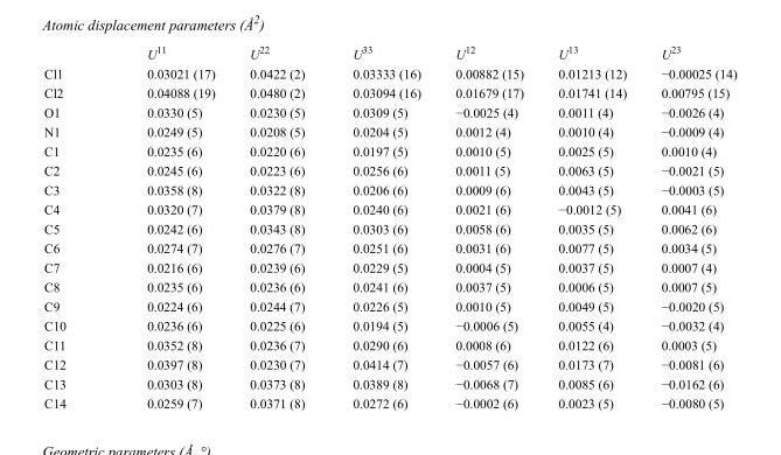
<table><thead><tr><td></td><td>U<sup>11</sup></td><td>U<sup>22</sup></td><td>U<sup>33</sup></td><td>U<sup>12</sup></td><td>U<sup>13</sup></td><td>U<sup>23</sup></td></tr></thead><tbody><tr><td>Cl1</td><td>0.03021 (17)</td><td>0.0422 (2)</td><td>0.03333 (16)</td><td>0.00882 (15)</td><td>0.01213 (12)</td><td>−0.00025 (14)</td></tr><tr><td>Cl2</td><td>0.04088 (19)</td><td>0.0480 (2)</td><td>0.03094 (16)</td><td>0.01679 (17)</td><td>0.01741 (14)</td><td>0.00795 (15)</td></tr><tr><td>O1</td><td>0.0330 (5)</td><td>0.0230 (5)</td><td>0.0309 (5)</td><td>−0.0025 (4)</td><td>0.0011 (4)</td><td>−0.0026 (4)</td></tr><tr><td>N1</td><td>0.0249 (5)</td><td>0.0208 (5)</td><td>0.0204 (5)</td><td>0.0012 (4)</td><td>0.0010 (4)</td><td>−0.0009 (4)</td></tr><tr><td>C1</td><td>0.0235 (6)</td><td>0.0220 (6)</td><td>0.0197 (5)</td><td>0.0010 (5)</td><td>0.0025 (5)</td><td>0.0010 (4)</td></tr><tr><td>C2</td><td>0.0245 (6)</td><td>0.0223 (6)</td><td>0.0256 (6)</td><td>0.0011 (5)</td><td>0.0063 (5)</td><td>−0.0021 (5)</td></tr><tr><td>C3</td><td>0.0358 (8)</td><td>0.0322 (8)</td><td>0.0206 (6)</td><td>0.0009 (6)</td><td>0.0043 (5)</td><td>−0.0003 (5)</td></tr><tr><td>C4</td><td>0.0320 (7)</td><td>0.0379 (8)</td><td>0.0240 (6)</td><td>0.0021 (6)</td><td>−0.0012 (5)</td><td>0.0041 (6)</td></tr><tr><td>C5</td><td>0.0242 (6)</td><td>0.0343 (8)</td><td>0.0303 (6)</td><td>0.0058 (6)</td><td>0.0035 (5)</td><td>0.0062 (6)</td></tr><tr><td>C6</td><td>0.0274 (7)</td><td>0.0276 (7)</td><td>0.0251 (6)</td><td>0.0031 (6)</td><td>0.0077 (5)</td><td>0.0034 (5)</td></tr><tr><td>C7</td><td>0.0216 (6)</td><td>0.0239 (6)</td><td>0.0229 (5)</td><td>0.0004 (5)</td><td>0.0037 (5)</td><td>0.0007 (4)</td></tr><tr><td>C8</td><td>0.0235 (6)</td><td>0.0236 (6)</td><td>0.0241 (6)</td><td>0.0037 (5)</td><td>0.0006 (5)</td><td>0.0007 (5)</td></tr><tr><td>C9</td><td>0.0224 (6)</td><td>0.0244 (7)</td><td>0.0226 (5)</td><td>0.0010 (5)</td><td>0.0049 (5)</td><td>−0.0020 (5)</td></tr><tr><td>C10</td><td>0.0236 (6)</td><td>0.0225 (6)</td><td>0.0194 (5)</td><td>−0.0006 (5)</td><td>0.0055 (4)</td><td>−0.0032 (4)</td></tr><tr><td>C11</td><td>0.0352 (8)</td><td>0.0236 (7)</td><td>0.0290 (6)</td><td>0.0008 (6)</td><td>0.0122 (6)</td><td>0.0003 (5)</td></tr><tr><td>C12</td><td>0.0397 (8)</td><td>0.0230 (7)</td><td>0.0414 (7)</td><td>−0.0057 (6)</td><td>0.0173 (7)</td><td>−0.0081 (6)</td></tr><tr><td>C13</td><td>0.0303 (8)</td><td>0.0373 (8)</td><td>0.0389 (8)</td><td>−0.0068 (7)</td><td>0.0085 (6)</td><td>−0.0162 (6)</td></tr><tr><td>C14</td><td>0.0259 (7)</td><td>0.0371 (8)</td><td>0.0272 (6)</td><td>−0.0002 (6)</td><td>0.0023 (5)</td><td>−0.0080 (5)</td></tr></tbody></table>